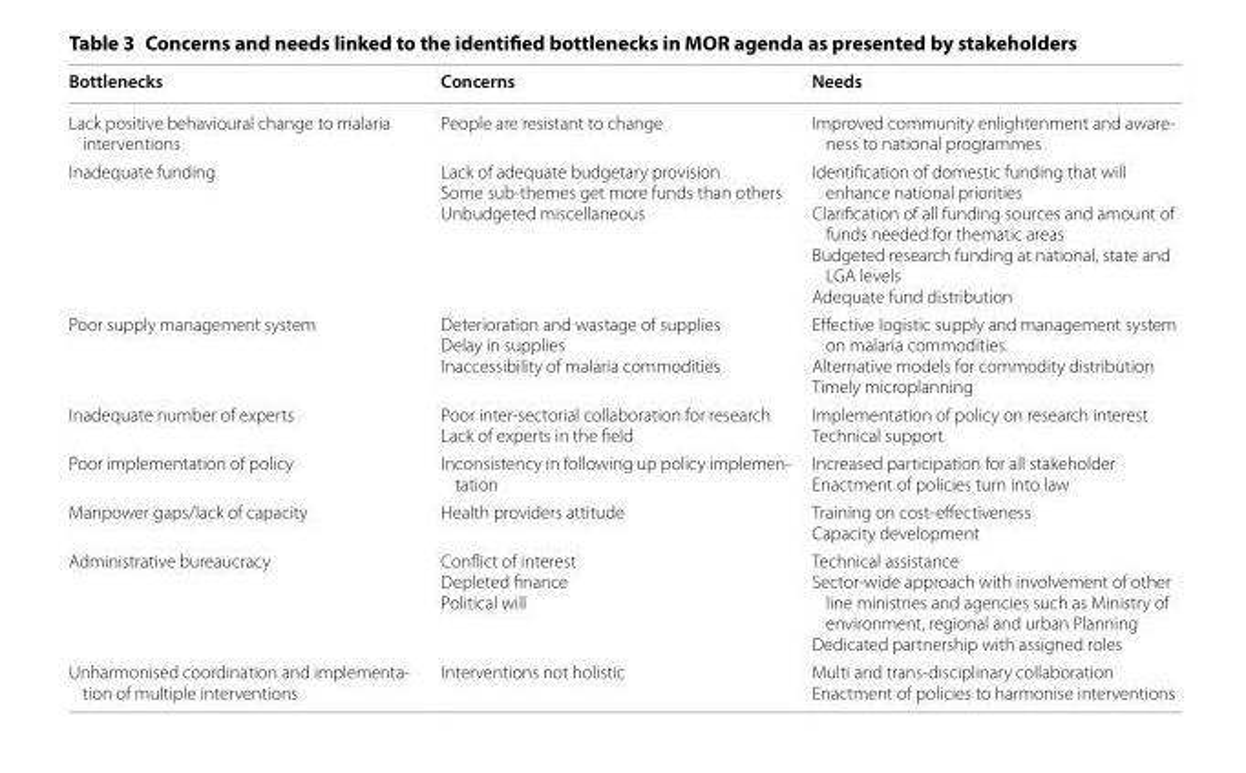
<table><thead><tr><td>Bottlenecks</td><td>Concerns</td><td>Needs</td></tr></thead><tbody><tr><td>Lack positive behavioural change to malaria interventions</td><td>People are resistant to change</td><td>Improved community enlightenment and aware‑ ness to national programmes</td></tr><tr><td>Inadequate funding</td><td>Lack of adequate budgetary provision Some sub‑themes get more funds than others Unbudgeted miscellaneous</td><td>Identification of domestic funding that will enhance national priorities Clarification of all funding sources and amount of funds needed for thematic areas Budgeted research funding at national, state and LGA levels Adequate fund distribution</td></tr><tr><td>Poor supply management system</td><td>Deterioration and wastage of supplies Delay in supplies Inaccessibility of malaria commodities</td><td>Effective logistic supply and management system on malaria commodities. Alternative models for commodity distribution Timely microplanning</td></tr><tr><td>Inadequate number of experts</td><td>Poor inter‑sectorial collaboration for research Lack of experts in the field</td><td>Implementation of policy on research interest Technical support</td></tr><tr><td>Poor implementation of policy</td><td>Inconsistency in following up policy implemen‑ tation</td><td>Increased participation for all stakeholder Enactment of policies turn into law</td></tr><tr><td>Manpower gaps/lack of capacity</td><td>Health providers attitude</td><td>Training on cost‑effectiveness Capacity development</td></tr><tr><td>Administrative bureaucracy</td><td>Conflict of interest Depleted finance Political will</td><td>Technical assistance Sector‑wide approach with involvement of other line ministries and agencies such as Ministry of environment, regional and urban Planning Dedicated partnership with assigned roles</td></tr><tr><td>Unharmonised coordination and implementa‑ tion of multiple interventions</td><td>Interventions not holistic</td><td>Multi and trans‑disciplinary collaboration Enactment of policies to harmonise interventions</td></tr></tbody></table>